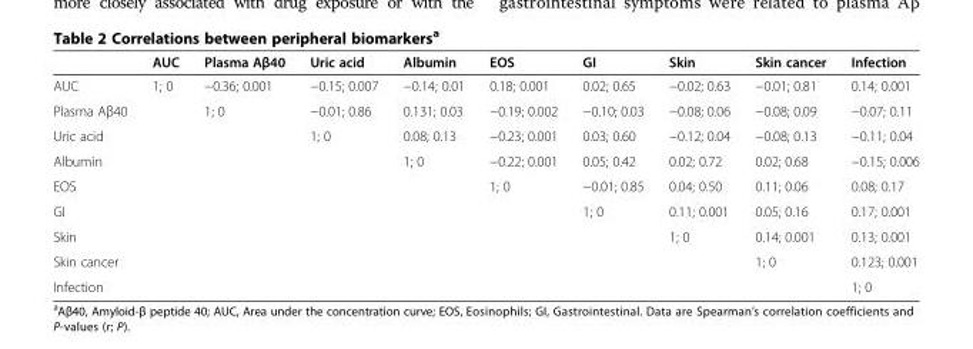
<table><thead><tr><td></td><td>AUC</td><td>Plasma Aβ40</td><td>Uric acid</td><td>Albumin</td><td>EOS</td><td>GI</td><td>Skin</td><td>Skin cancer</td><td>Infection</td></tr></thead><tbody><tr><td>AUC</td><td>1; 0</td><td>−0.36; 0.001</td><td>−0.15; 0.007</td><td>−0.14; 0.01</td><td>0.18; 0.001</td><td>0.02; 0.65</td><td>−0.02; 0.63</td><td>−0.01; 0.81</td><td>0.14; 0.001</td></tr><tr><td>Plasma Aβ40</td><td></td><td>1; 0</td><td>−0.01; 0.86</td><td>0.131; 0.03</td><td>−0.19; 0.002</td><td>−0.10; 0.03</td><td>−0.08; 0.06</td><td>−0.08; 0.09</td><td>−0.07; 0.11</td></tr><tr><td>Uric acid</td><td></td><td></td><td>1; 0</td><td>0.08; 0.13</td><td>−0.23; 0.001</td><td>0.03; 0.60</td><td>−0.12; 0.04</td><td>−0.08; 0.13</td><td>−0.11; 0.04</td></tr><tr><td>Albumin</td><td></td><td></td><td></td><td>1; 0</td><td>−0.22; 0.001</td><td>0.05; 0.42</td><td>0.02; 0.72</td><td>0.02; 0.68</td><td>−0.15; 0.006</td></tr><tr><td>EOS</td><td></td><td></td><td></td><td></td><td>1; 0</td><td>−0.01; 0.85</td><td>0.04; 0.50</td><td>0.11; 0.06</td><td>0.08; 0.17</td></tr><tr><td>GI</td><td></td><td></td><td></td><td></td><td></td><td>1; 0</td><td>0.11; 0.001</td><td>0.05; 0.16</td><td>0.17; 0.001</td></tr><tr><td>Skin</td><td></td><td></td><td></td><td></td><td></td><td></td><td>1; 0</td><td>0.14; 0.001</td><td>0.13; 0.001</td></tr><tr><td>Skin cancer</td><td></td><td></td><td></td><td></td><td></td><td></td><td></td><td>1; 0</td><td>0.123; 0.001</td></tr><tr><td>Infection</td><td></td><td></td><td></td><td></td><td></td><td></td><td></td><td></td><td>1; 0</td></tr></tbody></table>